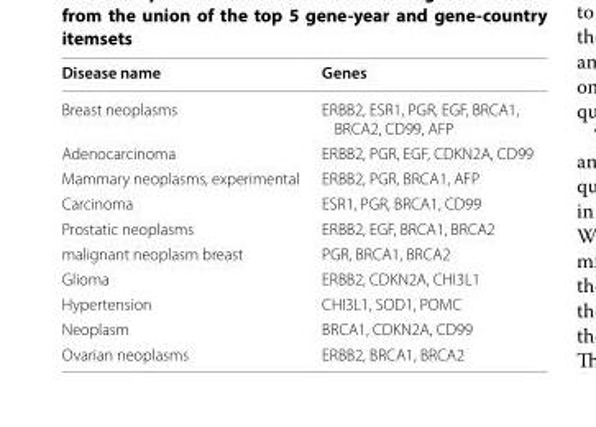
<table><thead><tr><td>Disease name</td><td>Genes</td></tr></thead><tbody><tr><td>Breast neoplasms</td><td>ERBB2, ESR1, PGR, EGF, BRCA1, BRCA2, CD99, AFP</td></tr><tr><td>Adenocarcinoma</td><td>ERBB2, PGR, EGF, CDKN2A, CD99</td></tr><tr><td>Mammary neoplasms, experimental</td><td>ERBB2, PGR, BRCA1, AFP</td></tr><tr><td>Carcinoma</td><td>ESR1, PGR, BRCA1, CD99</td></tr><tr><td>Prostatic neoplasms</td><td>ERBB2, EGF, BRCA1, BRCA2</td></tr><tr><td>malignant neoplasm breast</td><td>PGR, BRCA1, BRCA2</td></tr><tr><td>Glioma</td><td>ERBB2, CDKN2A, CHI3L1</td></tr><tr><td>Hypertension</td><td>CHI3L1, SOD1, POMC</td></tr><tr><td>Neoplasm</td><td>BRCA1, CDKN2A, CD99</td></tr><tr><td>Ovarian neoplasms</td><td>ERBB2, BRCA1, BRCA2</td></tr></tbody></table>